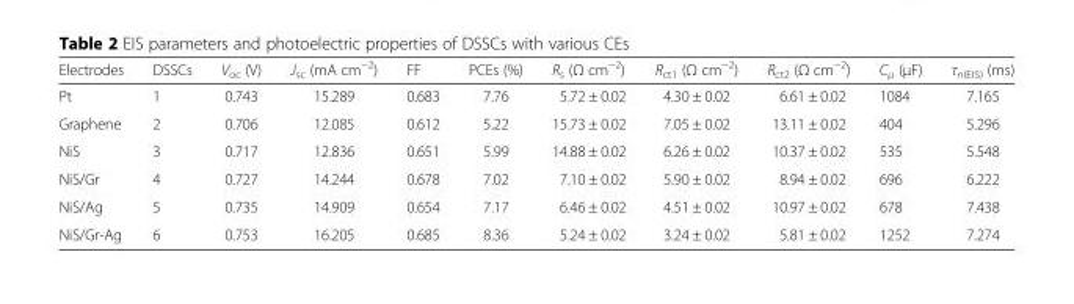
<table><thead><tr><td>Electrodes</td><td>DSSCs</td><td>V<sub>oc</sub> (V)</td><td>J<sub>sc</sub> (mA cm<sup>−2</sup>)</td><td>FF</td><td>PCEs (%)</td><td>R<sub>s</sub> (Ω cm<sup>−2</sup>)</td><td>R<sub>ct1</sub> (Ω cm<sup>−2</sup>)</td><td>R<sub>ct2</sub> (Ω cm<sup>−2</sup>)</td><td>C<sub>μ</sub> (μF)</td><td>τ<sub>n(EIS)</sub> (ms)</td></tr></thead><tbody><tr><td>Pt</td><td>1</td><td>0.743</td><td>15.289</td><td>0.683</td><td>7.76</td><td>5.72 ± 0.02</td><td>4.30 ± 0.02</td><td>6.61 ± 0.02</td><td>1084</td><td>7.165</td></tr><tr><td>Graphene</td><td>2</td><td>0.706</td><td>12.085</td><td>0.612</td><td>5.22</td><td>15.73 ± 0.02</td><td>7.05 ± 0.02</td><td>13.11 ± 0.02</td><td>404</td><td>5.296</td></tr><tr><td>NiS</td><td>3</td><td>0.717</td><td>12.836</td><td>0.651</td><td>5.99</td><td>14.88 ± 0.02</td><td>6.26 ± 0.02</td><td>10.37 ± 0.02</td><td>535</td><td>5.548</td></tr><tr><td>NiS/Gr</td><td>4</td><td>0.727</td><td>14.244</td><td>0.678</td><td>7.02</td><td>7.10 ± 0.02</td><td>5.90 ± 0.02</td><td>8.94 ± 0.02</td><td>696</td><td>6.222</td></tr><tr><td>NiS/Ag</td><td>5</td><td>0.735</td><td>14.909</td><td>0.654</td><td>7.17</td><td>6.46 ± 0.02</td><td>4.51 ± 0.02</td><td>10.97 ± 0.02</td><td>678</td><td>7.438</td></tr><tr><td>NiS/Gr-Ag</td><td>6</td><td>0.753</td><td>16.205</td><td>0.685</td><td>8.36</td><td>5.24 ± 0.02</td><td>3.24 ± 0.02</td><td>5.81 ± 0.02</td><td>1252</td><td>7.274</td></tr></tbody></table>